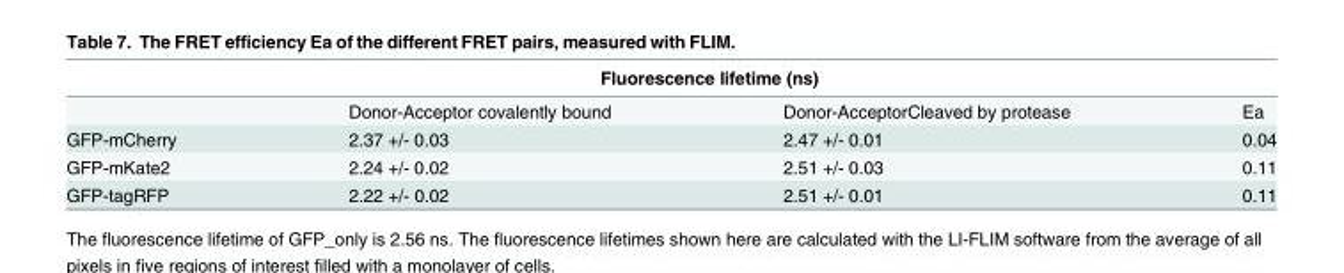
<table><thead><tr><td rowspan="2"></td><td colspan="2">Fluorescence lifetime (ns)</td><td rowspan="2">Ea</td></tr><tr><td>Donor-Acceptor covalently bound</td><td>Donor-AcceptorCleaved by protease</td></tr></thead><tbody><tr><td>GFP-mCherry</td><td>2.37 +/- 0.03</td><td>2.47 +/- 0.01</td><td>0.04</td></tr><tr><td>GFP-mKate2</td><td>2.24 +/- 0.02</td><td>2.51 +/- 0.03</td><td>0.11</td></tr><tr><td>GFP-tagRFP</td><td>2.22 +/- 0.02</td><td>2.51 +/- 0.01</td><td>0.11</td></tr></tbody></table>